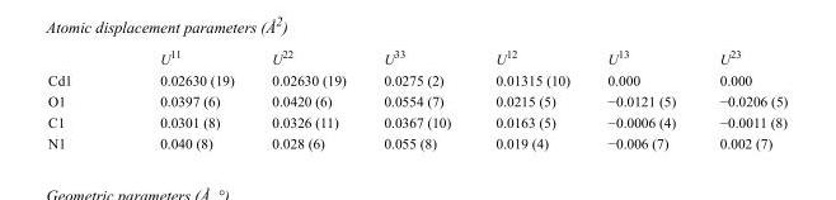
<table><thead><tr><td></td><td>U<sup>11</sup></td><td>U<sup>22</sup></td><td>U<sup>33</sup></td><td>U<sup>12</sup></td><td>U<sup>13</sup></td><td>U<sup>23</sup></td></tr></thead><tbody><tr><td>Cd1</td><td>0.02630 (19)</td><td>0.02630 (19)</td><td>0.0275 (2)</td><td>0.01315 (10)</td><td>0.000</td><td>0.000</td></tr><tr><td>O1</td><td>0.0397 (6)</td><td>0.0420 (6)</td><td>0.0554 (7)</td><td>0.0215 (5)</td><td>−0.0121 (5)</td><td>−0.0206 (5)</td></tr><tr><td>C1</td><td>0.0301 (8)</td><td>0.0326 (11)</td><td>0.0367 (10)</td><td>0.0163 (5)</td><td>−0.0006 (4)</td><td>−0.0011 (8)</td></tr><tr><td>N1</td><td>0.040 (8)</td><td>0.028 (6)</td><td>0.055 (8)</td><td>0.019 (4)</td><td>−0.006 (7)</td><td>0.002 (7)</td></tr></tbody></table>